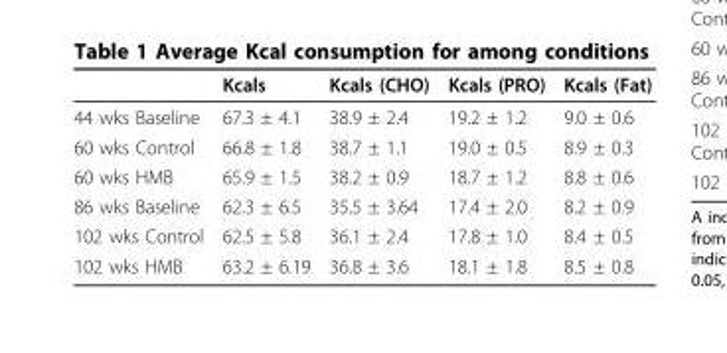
<table><thead><tr><td></td><td>Kcals</td><td>Kcals (CHO)</td><td>Kcals (PRO)</td><td>Kcals (Fat)</td></tr></thead><tbody><tr><td>44 wks Baseline</td><td>67.3 ± 4.1</td><td>38.9 ± 2.4</td><td>19.2 ± 1.2</td><td>9.0 ± 0.6</td></tr><tr><td>60 wks Control</td><td>66.8 ± 1.8</td><td>38.7 ± 1.1</td><td>19.0 ± 0.5</td><td>8.9 ± 0.3</td></tr><tr><td>60 wks HMB</td><td>65.9 ± 1.5</td><td>38.2 ± 0.9</td><td>18.7 ± 1.2</td><td>8.8 ± 0.6</td></tr><tr><td>86 wks Baseline</td><td>62.3 ± 6.5</td><td>35.5 ± 3.64</td><td>17.4 ± 2.0</td><td>8.2 ± 0.9</td></tr><tr><td>102 wks Control</td><td>62.5 ± 5.8</td><td>36.1 ± 2.4</td><td>17.8 ± 1.0</td><td>8.4 ± 0.5</td></tr><tr><td>102 wks HMB</td><td>63.2 ± 6.19</td><td>36.8 ± 3.6</td><td>18.1 ± 1.8</td><td>8.5 ± 0.8</td></tr></tbody></table>